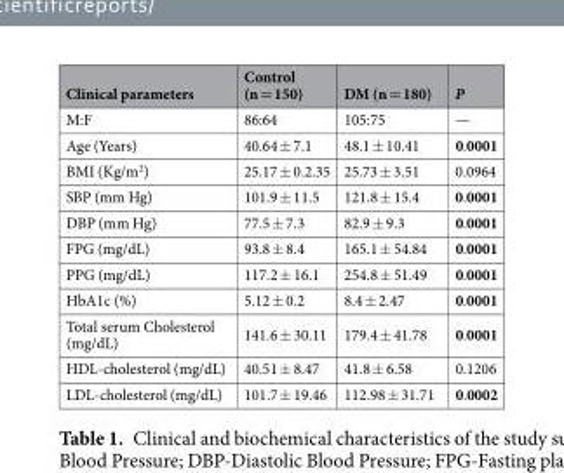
<table><thead><tr><td>Clinical parameters</td><td>Control (n = 150)</td><td>DM (n = 180)</td><td>P</td></tr></thead><tbody><tr><td>M:F</td><td>86:64</td><td>105:75</td><td>—</td></tr><tr><td>Age (Years)</td><td>40.64 ± 7.1</td><td>48.1 ± 10.41</td><td>0.0001</td></tr><tr><td>BMI (Kg/m<sup>2</sup>)</td><td>25.17 ± 0.2.35</td><td>25.73 ± 3.51</td><td>0.0964</td></tr><tr><td>SBP (mm Hg)</td><td>101.9 ± 11.5</td><td>121.8 ± 15.4</td><td>0.0001</td></tr><tr><td>DBP (mm Hg)</td><td>77.5 ± 7.3</td><td>82.9 ± 9.3</td><td>0.0001</td></tr><tr><td>FPG (mg/dL)</td><td>93.8 ± 8.4</td><td>165.1 ± 54.84</td><td>0.0001</td></tr><tr><td>PPG (mg/dL)</td><td>117.2 ± 16.1</td><td>254.8 ± 51.49</td><td>0.0001</td></tr><tr><td>HbA1c (%)</td><td>5.12 ± 0.2</td><td>8.4 ± 2.47</td><td>0.0001</td></tr><tr><td>Total serum Cholesterol (mg/dL)</td><td>141.6 ± 30.11</td><td>179.4 ± 41.78</td><td>0.0001</td></tr><tr><td>HDL-cholesterol (mg/dL)</td><td>40.51 ± 8.47</td><td>41.8 ± 6.58</td><td>0.1206</td></tr><tr><td>LDL-cholesterol (mg/dL)</td><td>101.7 ± 19.46</td><td>112.98 ± 31.71</td><td>0.0002</td></tr></tbody></table>